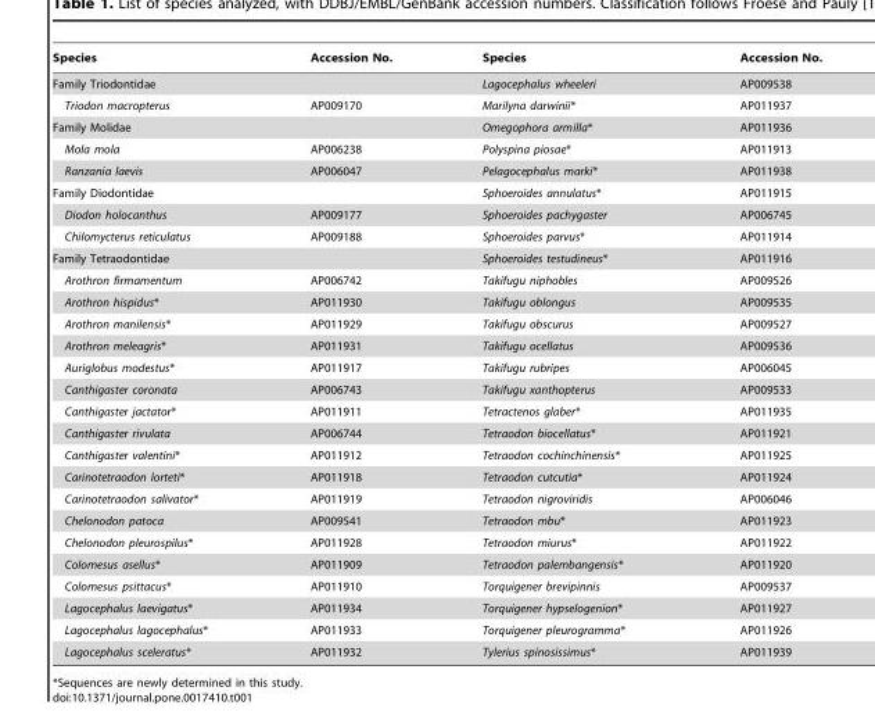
<table><thead><tr><td>Species</td><td>Accession No.</td><td>Species</td><td>Accession No.</td></tr></thead><tbody><tr><td>Family Triodontidae</td><td></td><td>Lagocephalus wheeleri</td><td>AP009538</td></tr><tr><td>Triodon macropterus</td><td>AP009170</td><td>Marilyna darwinii*</td><td>AP011937</td></tr><tr><td>Family Molidae</td><td></td><td>Omegophora armilla*</td><td>AP011936</td></tr><tr><td>Mola mola</td><td>AP006238</td><td>Polyspina piosae*</td><td>AP011913</td></tr><tr><td>Ranzania laevis</td><td>AP006047</td><td>Pelagocephalus marki*</td><td>AP011938</td></tr><tr><td>Family Diodontidae</td><td></td><td>Sphoeroides annulatus*</td><td>AP011915</td></tr><tr><td>Diodon holocanthus</td><td>AP009177</td><td>Sphoeroides pachygaster</td><td>AP006745</td></tr><tr><td>Chilomycterus reticulatus</td><td>AP009188</td><td>Sphoeroides parvus*</td><td>AP011914</td></tr><tr><td>Family Tetraodontidae</td><td></td><td>Sphoeroides testudineus*</td><td>AP011916</td></tr><tr><td>Arothron firmamentum</td><td>AP006742</td><td>Takifugu niphobles</td><td>AP009526</td></tr><tr><td>Arothron hispidus*</td><td>AP011930</td><td>Takifugu oblongus</td><td>AP009535</td></tr><tr><td>Arothron manilensis*</td><td>AP011929</td><td>Takifugu obscurus</td><td>AP009527</td></tr><tr><td>Arothron meleagris*</td><td>AP011931</td><td>Takifugu ocellatus</td><td>AP009536</td></tr><tr><td>Auriglobus modestus*</td><td>AP011917</td><td>Takifugu rubripes</td><td>AP006045</td></tr><tr><td>Canthigaster coronata</td><td>AP006743</td><td>Takifugu xanthopterus</td><td>AP009533</td></tr><tr><td>Canthigaster jactator*</td><td>AP011911</td><td>Tetractenos glaber*</td><td>AP011935</td></tr><tr><td>Canthigaster rivulata</td><td>AP006744</td><td>Tetraodon biocellatus*</td><td>AP011921</td></tr><tr><td>Canthigaster valentini*</td><td>AP011912</td><td>Tetraodon cochinchinensis*</td><td>AP011925</td></tr><tr><td>Carinotetraodon lorteti*</td><td>AP011918</td><td>Tetraodon cutcutia*</td><td>AP011924</td></tr><tr><td>Carinotetraodon salivator*</td><td>AP011919</td><td>Tetraodon nigroviridis</td><td>AP006046</td></tr><tr><td>Chelonodon patoca</td><td>AP009541</td><td>Tetraodon mbu*</td><td>AP011923</td></tr><tr><td>Chelonodon pleurospilus*</td><td>AP011928</td><td>Tetraodon miurus*</td><td>AP011922</td></tr><tr><td>Colomesus asellus*</td><td>AP011909</td><td>Tetraodon palembangensis*</td><td>AP011920</td></tr><tr><td>Colomesus psittacus*</td><td>AP011910</td><td>Torquigener brevipinnis</td><td>AP009537</td></tr><tr><td>Lagocephalus laevigatus*</td><td>AP011934</td><td>Torquigener hypselogenion*</td><td>AP011927</td></tr><tr><td>Lagocephalus lagocephalus*</td><td>AP011933</td><td>Torquigener pleurogramma*</td><td>AP011926</td></tr><tr><td>Lagocephalus sceleratus*</td><td>AP011932</td><td>Tylerius spinosissimus*</td><td>AP011939</td></tr></tbody></table>